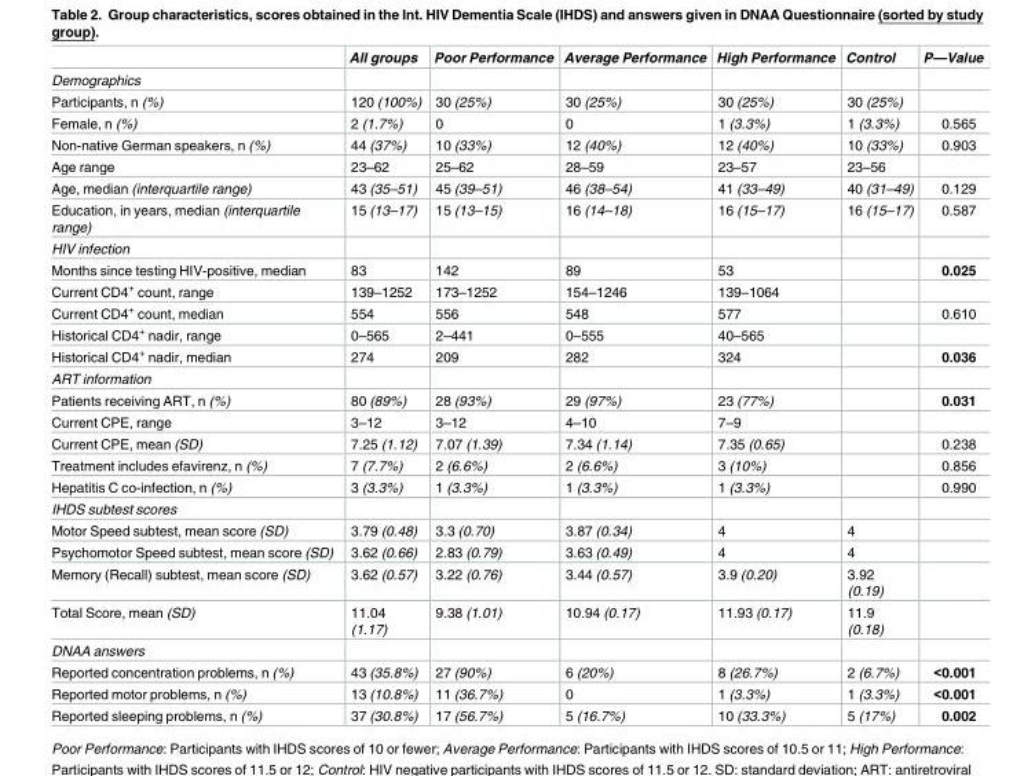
<table><thead><tr><td></td><td>All groups</td><td>Poor Performance</td><td>Average Performance</td><td>High Performance</td><td>Control</td><td>P—Value</td></tr></thead><tbody><tr><td colspan="7">Demographics</td></tr><tr><td>Participants, n (%)</td><td>120 (100%)</td><td>30 (25%)</td><td>30 (25%)</td><td>30 (25%)</td><td>30 (25%)</td><td></td></tr><tr><td>Female, n (%)</td><td>2 (1.7%)</td><td>0</td><td>0</td><td>1 (3.3%)</td><td>1 (3.3%)</td><td>0.565</td></tr><tr><td>Non-native German speakers, n (%)</td><td>44 (37%)</td><td>10 (33%)</td><td>12 (40%)</td><td>12 (40%)</td><td>10 (33%)</td><td>0.903</td></tr><tr><td>Age range</td><td>23–62</td><td>25–62</td><td>28–59</td><td>23–57</td><td>23–56</td><td></td></tr><tr><td>Age, median (interquartile range)</td><td>43 (35–51)</td><td>45 (39–51)</td><td>46 (38–54)</td><td>41 (33–49)</td><td>40 (31–49)</td><td>0.129</td></tr><tr><td>Education, in years, median (interquartile range)</td><td>15 (13–17)</td><td>15 (13–15)</td><td>16 (14–18)</td><td>16 (15–17)</td><td>16 (15–17)</td><td>0.587</td></tr><tr><td colspan="7">HIV infection</td></tr><tr><td>Months since testing HIV-positive, median</td><td>83</td><td>142</td><td>89</td><td>53</td><td></td><td>0.025</td></tr><tr><td>Current CD4<sup>+</sup> count, range</td><td>139–1252</td><td>173–1252</td><td>154–1246</td><td>139–1064</td><td></td><td></td></tr><tr><td>Current CD4<sup>+</sup> count, median</td><td>554</td><td>556</td><td>548</td><td>577</td><td></td><td>0.610</td></tr><tr><td>Historical CD4<sup>+</sup> nadir, range</td><td>0–565</td><td>2–441</td><td>0–555</td><td>40–565</td><td></td><td></td></tr><tr><td>Historical CD4<sup>+</sup> nadir, median</td><td>274</td><td>209</td><td>282</td><td>324</td><td></td><td>0.036</td></tr><tr><td colspan="7">ART information</td></tr><tr><td>Patients receiving ART, n (%)</td><td>80 (89%)</td><td>28 (93%)</td><td>29 (97%)</td><td>23 (77%)</td><td></td><td>0.031</td></tr><tr><td>Current CPE, range</td><td>3–12</td><td>3–12</td><td>4–10</td><td>7–9</td><td></td><td></td></tr><tr><td>Current CPE, mean (SD)</td><td>7.25 (1.12)</td><td>7.07 (1.39)</td><td>7.34 (1.14)</td><td>7.35 (0.65)</td><td></td><td>0.238</td></tr><tr><td>Treatment includes efavirenz, n (%)</td><td>7 (7.7%)</td><td>2 (6.6%)</td><td>2 (6.6%)</td><td>3 (10%)</td><td></td><td>0.856</td></tr><tr><td>Hepatitis C co-infection, n (%)</td><td>3 (3.3%)</td><td>1 (3.3%)</td><td>1 (3.3%)</td><td>1 (3.3%)</td><td></td><td>0.990</td></tr><tr><td colspan="7">IHDS subtest scores</td></tr><tr><td>Motor Speed subtest, mean score (SD)</td><td>3.79 (0.48)</td><td>3.3 (0.70)</td><td>3.87 (0.34)</td><td>4</td><td>4</td><td></td></tr><tr><td>Psychomotor Speed subtest, mean score (SD)</td><td>3.62 (0.66)</td><td>2.83 (0.79)</td><td>3.63 (0.49)</td><td>4</td><td>4</td><td></td></tr><tr><td>Memory (Recall) subtest, mean score (SD)</td><td>3.62 (0.57)</td><td>3.22 (0.76)</td><td>3.44 (0.57)</td><td>3.9 (0.20)</td><td>3.92 (0.19)</td><td></td></tr><tr><td>Total Score, mean (SD)</td><td>11.04 (1.17)</td><td>9.38 (1.01)</td><td>10.94 (0.17)</td><td>11.93 (0.17)</td><td>11.9 (0.18)</td><td></td></tr><tr><td colspan="7">DNAA answers</td></tr><tr><td>Reported concentration problems, n (%)</td><td>43 (35.8%)</td><td>27 (90%)</td><td>6 (20%)</td><td>8 (26.7%)</td><td>2 (6.7%)</td><td>&lt;0.001</td></tr><tr><td>Reported motor problems, n (%)</td><td>13 (10.8%)</td><td>11 (36.7%)</td><td>0</td><td>1 (3.3%)</td><td>1 (3.3%)</td><td>&lt;0.001</td></tr><tr><td>Reported sleeping problems, n (%)</td><td>37 (30.8%)</td><td>17 (56.7%)</td><td>5 (16.7%)</td><td>10 (33.3%)</td><td>5 (17%)</td><td>0.002</td></tr></tbody></table>